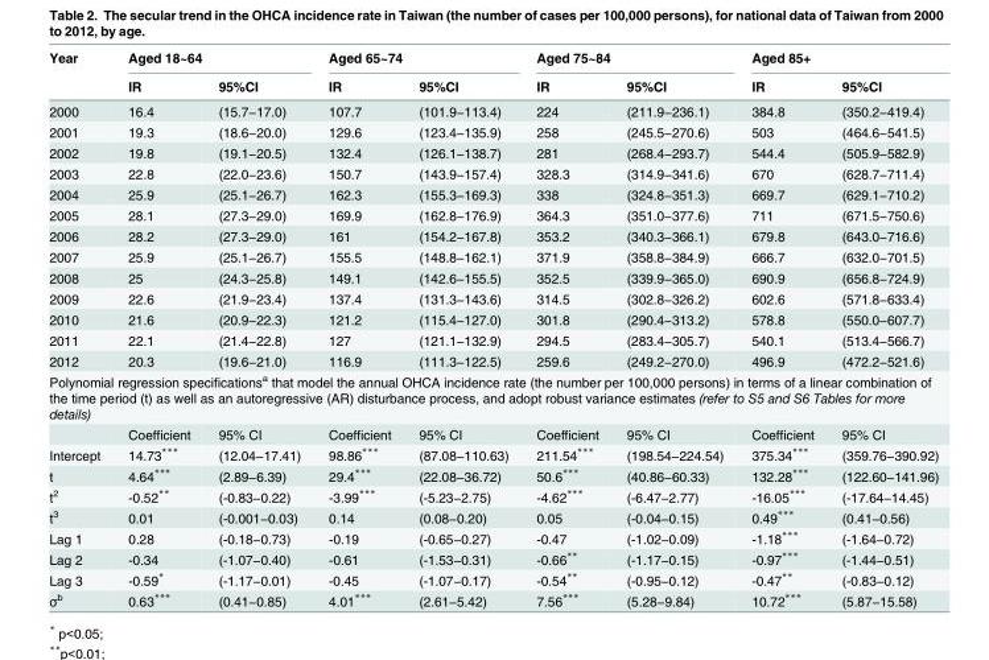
<table><thead><tr><td rowspan="2">Year</td><td colspan="2">Aged 18~64</td><td colspan="2">Aged 65~74</td><td colspan="2">Aged 75~84</td><td colspan="2">Aged 85+</td></tr><tr><td>IR</td><td>95%CI</td><td>IR</td><td>95%CI</td><td>IR</td><td>95%CI</td><td>IR</td><td>95%CI</td></tr></thead><tbody><tr><td>2000</td><td>16.4</td><td>(15.7−17.0)</td><td>107.7</td><td>(101.9−113.4)</td><td>224</td><td>(211.9−236.1)</td><td>384.8</td><td>(350.2−419.4)</td></tr><tr><td>2001</td><td>19.3</td><td>(18.6−20.0)</td><td>129.6</td><td>(123.4−135.9)</td><td>258</td><td>(245.5−270.6)</td><td>503</td><td>(464.6−541.5)</td></tr><tr><td>2002</td><td>19.8</td><td>(19.1−20.5)</td><td>132.4</td><td>(126.1−138.7)</td><td>281</td><td>(268.4−293.7)</td><td>544.4</td><td>(505.9−582.9)</td></tr><tr><td>2003</td><td>22.8</td><td>(22.0−23.6)</td><td>150.7</td><td>(143.9−157.4)</td><td>328.3</td><td>(314.9−341.6)</td><td>670</td><td>(628.7−711.4)</td></tr><tr><td>2004</td><td>25.9</td><td>(25.1−26.7)</td><td>162.3</td><td>(155.3−169.3)</td><td>338</td><td>(324.8−351.3)</td><td>669.7</td><td>(629.1−710.2)</td></tr><tr><td>2005</td><td>28.1</td><td>(27.3−29.0)</td><td>169.9</td><td>(162.8−176.9)</td><td>364.3</td><td>(351.0−377.6)</td><td>711</td><td>(671.5−750.6)</td></tr><tr><td>2006</td><td>28.2</td><td>(27.3−29.0)</td><td>161</td><td>(154.2−167.8)</td><td>353.2</td><td>(340.3−366.1)</td><td>679.8</td><td>(643.0−716.6)</td></tr><tr><td>2007</td><td>25.9</td><td>(25.1−26.7)</td><td>155.5</td><td>(148.8−162.1)</td><td>371.9</td><td>(358.8−384.9)</td><td>666.7</td><td>(632.0−701.5)</td></tr><tr><td>2008</td><td>25</td><td>(24.3−25.8)</td><td>149.1</td><td>(142.6−155.5)</td><td>352.5</td><td>(339.9−365.0)</td><td>690.9</td><td>(656.8−724.9)</td></tr><tr><td>2009</td><td>22.6</td><td>(21.9−23.4)</td><td>137.4</td><td>(131.3−143.6)</td><td>314.5</td><td>(302.8−326.2)</td><td>602.6</td><td>(571.8−633.4)</td></tr><tr><td>2010</td><td>21.6</td><td>(20.9−22.3)</td><td>121.2</td><td>(115.4−127.0)</td><td>301.8</td><td>(290.4−313.2)</td><td>578.8</td><td>(550.0−607.7)</td></tr><tr><td>2011</td><td>22.1</td><td>(21.4−22.8)</td><td>127</td><td>(121.1−132.9)</td><td>294.5</td><td>(283.4−305.7)</td><td>540.1</td><td>(513.4−566.7)</td></tr><tr><td>2012</td><td>20.3</td><td>(19.6−21.0)</td><td>116.9</td><td>(111.3−122.5)</td><td>259.6</td><td>(249.2−270.0)</td><td>496.9</td><td>(472.2−521.6)</td></tr><tr><td colspan="9">Polynomial regression specifications<sup>a</sup> that model the annual OHCA incidence rate (the number per 100,000 persons) in terms of a linear combination of the time period (t) as well as an autoregressive (AR) disturbance process, and adopt robust variance estimates (refer to S5 and S6 Tables for more details)</td></tr><tr><td></td><td>Coefficient</td><td>95% CI</td><td>Coefficient</td><td>95% CI</td><td>Coefficient</td><td>95% CI</td><td>Coefficient</td><td>95% CI</td></tr><tr><td>Intercept</td><td>14.73***</td><td>(12.04−17.41)</td><td>98.86***</td><td>(87.08−110.63)</td><td>211.54***</td><td>(198.54−224.54)</td><td>375.34***</td><td>(359.76−390.92)</td></tr><tr><td>t</td><td>4.64***</td><td>(2.89−6.39)</td><td>29.4***</td><td>(22.08−36.72)</td><td>50.6***</td><td>(40.86−60.33)</td><td>132.28***</td><td>(122.60−141.96)</td></tr><tr><td>t<sup>2</sup></td><td>-0.52**</td><td>(-0.83−0.22)</td><td>-3.99***</td><td>(-5.23−2.75)</td><td>-4.62***</td><td>(-6.47−2.77)</td><td>-16.05***</td><td>(-17.64−14.45)</td></tr><tr><td>t<sup>3</sup></td><td>0.01</td><td>(-0.001−0.03)</td><td>0.14</td><td>(0.08−0.20)</td><td>0.05</td><td>(-0.04−0.15)</td><td>0.49***</td><td>(0.41−0.56)</td></tr><tr><td>Lag 1</td><td>0.28</td><td>(-0.18−0.73)</td><td>-0.19</td><td>(-0.65−0.27)</td><td>-0.47</td><td>(-1.02−0.09)</td><td>-1.18***</td><td>(-1.64−0.72)</td></tr><tr><td>Lag 2</td><td>-0.34</td><td>(-1.07−0.40)</td><td>-0.61</td><td>(-1.53−0.31)</td><td>-0.66**</td><td>(-1.17−0.15)</td><td>-0.97***</td><td>(-1.44−0.51)</td></tr><tr><td>Lag 3</td><td>-0.59*</td><td>(-1.17−0.01)</td><td>-0.45</td><td>(-1.07−0.17)</td><td>-0.54**</td><td>(-0.95−0.12)</td><td>-0.47**</td><td>(-0.83−0.12)</td></tr><tr><td>σ<sup>b</sup></td><td>0.63***</td><td>(0.41−0.85)</td><td>4.01***</td><td>(2.61−5.42)</td><td>7.56***</td><td>(5.28−9.84)</td><td>10.72***</td><td>(5.87−15.58)</td></tr></tbody></table>